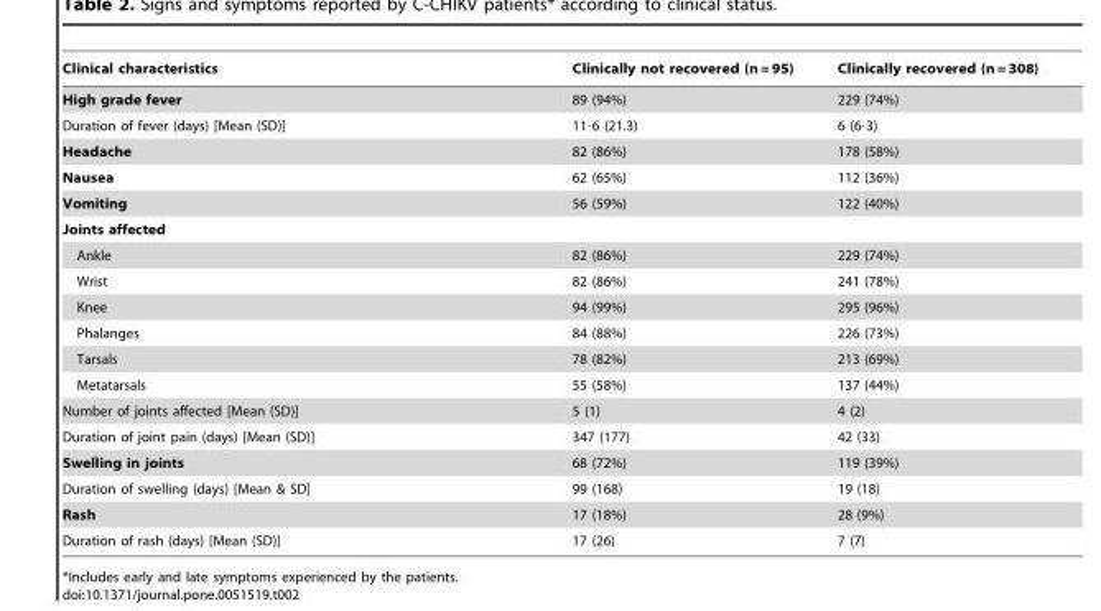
<table><thead><tr><td>Clinical characteristics</td><td>Clinically not recovered (n = 95)</td><td>Clinically recovered (n = 308)</td></tr></thead><tbody><tr><td>High grade fever</td><td>89 (94%)</td><td>229 (74%)</td></tr><tr><td>Duration of fever (days) [Mean (SD)]</td><td>11·6 (21.3)</td><td>6 (6·3)</td></tr><tr><td>Headache</td><td>82 (86%)</td><td>178 (58%)</td></tr><tr><td>Nausea</td><td>62 (65%)</td><td>112 (36%)</td></tr><tr><td>Vomiting</td><td>56 (59%)</td><td>122 (40%)</td></tr><tr><td colspan="3">Joints affected</td></tr><tr><td>Ankle</td><td>82 (86%)</td><td>229 (74%)</td></tr><tr><td>Wrist</td><td>82 (86%)</td><td>241 (78%)</td></tr><tr><td>Knee</td><td>94 (99%)</td><td>295 (96%)</td></tr><tr><td>Phalanges</td><td>84 (88%)</td><td>226 (73%)</td></tr><tr><td>Tarsals</td><td>78 (82%)</td><td>213 (69%)</td></tr><tr><td>Metatarsals</td><td>55 (58%)</td><td>137 (44%)</td></tr><tr><td>Number of joints affected [Mean (SD)]</td><td>5 (1)</td><td>4 (2)</td></tr><tr><td>Duration of joint pain (days) [Mean (SD)]</td><td>347 (177)</td><td>42 (33)</td></tr><tr><td>Swelling in joints</td><td>68 (72%)</td><td>119 (39%)</td></tr><tr><td>Duration of swelling (days) [Mean &amp; SD]</td><td>99 (168)</td><td>19 (18)</td></tr><tr><td>Rash</td><td>17 (18%)</td><td>28 (9%)</td></tr><tr><td>Duration of rash (days) [Mean (SD)]</td><td>17 (26)</td><td>7 (7)</td></tr></tbody></table>